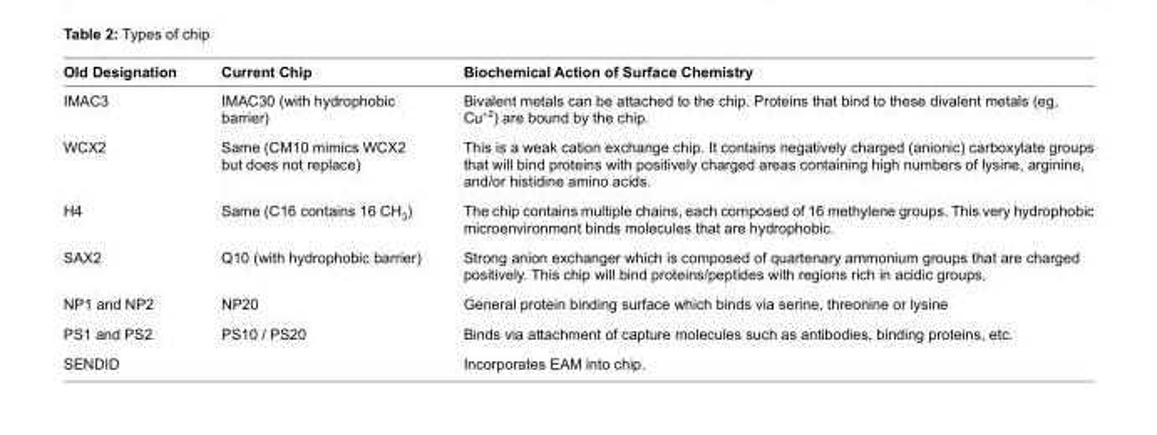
<table><thead><tr><td>Old Designation</td><td>Current Chip</td><td>Biochemical Action of Surface Chemistry</td></tr></thead><tbody><tr><td>IMAC3</td><td>IMAC30 (with hydrophobic barrier)</td><td>Bivalent metals can be attached to the chip. Proteins that bind to these divalent metals (eg, Cu<sup>+2</sup>) are bound by the chip.</td></tr><tr><td>WCX2</td><td>Same (CM10 mimics WCX2 but does not replace)</td><td>This is a weak cation exchange chip. It contains negatively charged (anionic) carboxylate groups that will bind proteins with positively charged areas containing high numbers of lysine, arginine, and/or histidine amino acids.</td></tr><tr><td>H4</td><td>Same (C16 contains 16 CH<sub>3</sub>)</td><td>The chip contains multiple chains, each composed of 16 methylene groups. This very hydrophobic microenvironment binds molecules that are hydrophobic.</td></tr><tr><td>SAX2</td><td>Q10 (with hydrophobic barrier)</td><td>Strong anion exchanger which is composed of quartenary ammonium groups that are charged positively. This chip will bind proteins/peptides with regions rich in acidic groups,</td></tr><tr><td>NP1 and NP2</td><td>NP20</td><td>General protein binding surface which binds via serine, threonine or lysine</td></tr><tr><td>PS1 and PS2</td><td>PS10 / PS20</td><td>Binds via attachment of capture molecules such as antibodies, binding proteins, etc.</td></tr><tr><td>SENDID</td><td></td><td>Incorporates EAM into chip.</td></tr></tbody></table>